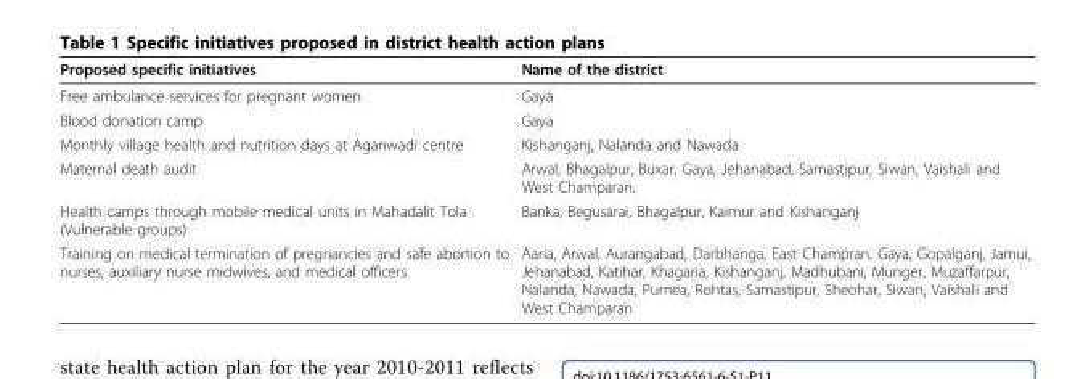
<table><thead><tr><td>Proposed specific initiatives</td><td>Name of the district</td></tr></thead><tbody><tr><td>Free ambulance services for pregnant women</td><td>Gaya</td></tr><tr><td>Blood donation camp</td><td>Gaya</td></tr><tr><td>Monthly village health and nutrition days at Aganwadi centre</td><td>Kishanganj, Nalanda and Nawada</td></tr><tr><td>Maternal death audit</td><td>Arwal, Bhagalpur, Buxar, Gaya, Jehanabad, Samastipur, Siwan, Vaishali and West Champaran.</td></tr><tr><td>Health camps through mobile medical units in Mahadalit Tola (Vulnerable groups)</td><td>Banka, Begusarai, Bhagalpur, Kaimur and Kishanganj</td></tr><tr><td>Training on medical termination of pregnancies and safe abortion to nurses, auxiliary nurse midwives, and medical officers</td><td>Aaria, Arwal, Aurangabad, Darbhanga, East Champran, Gaya, Gopalganj, Jamui, Jehanabad, Katihar, Khagaria, Kishanganj, Madhubani, Munger, Muzaffarpur, Nalanda, Nawada, Purnea, Rohtas, Samastipur, Sheohar, Siwan, Vaishali and West Champaran</td></tr></tbody></table>